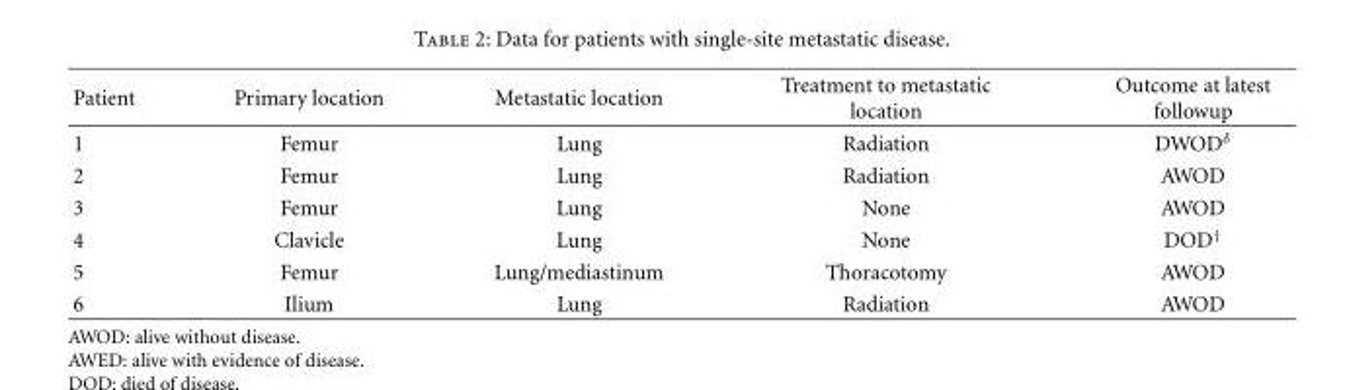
<table><thead><tr><td>Patient</td><td>Primary location</td><td>Metastatic location</td><td>Treatment to metastatic location</td><td>Outcome at latest followup</td></tr></thead><tbody><tr><td>1</td><td>Femur</td><td>Lung</td><td>Radiation</td><td>DWOD<sup>δ</sup></td></tr><tr><td>2</td><td>Femur</td><td>Lung</td><td>Radiation</td><td>AWOD</td></tr><tr><td>3</td><td>Femur</td><td>Lung</td><td>None</td><td>AWOD</td></tr><tr><td>4</td><td>Clavicle</td><td>Lung</td><td>None</td><td>DOD<sup>†</sup></td></tr><tr><td>5</td><td>Femur</td><td>Lung/mediastinum</td><td>Thoracotomy</td><td>AWOD</td></tr><tr><td>6</td><td>Ilium</td><td>Lung</td><td>Radiation</td><td>AWOD</td></tr></tbody></table>